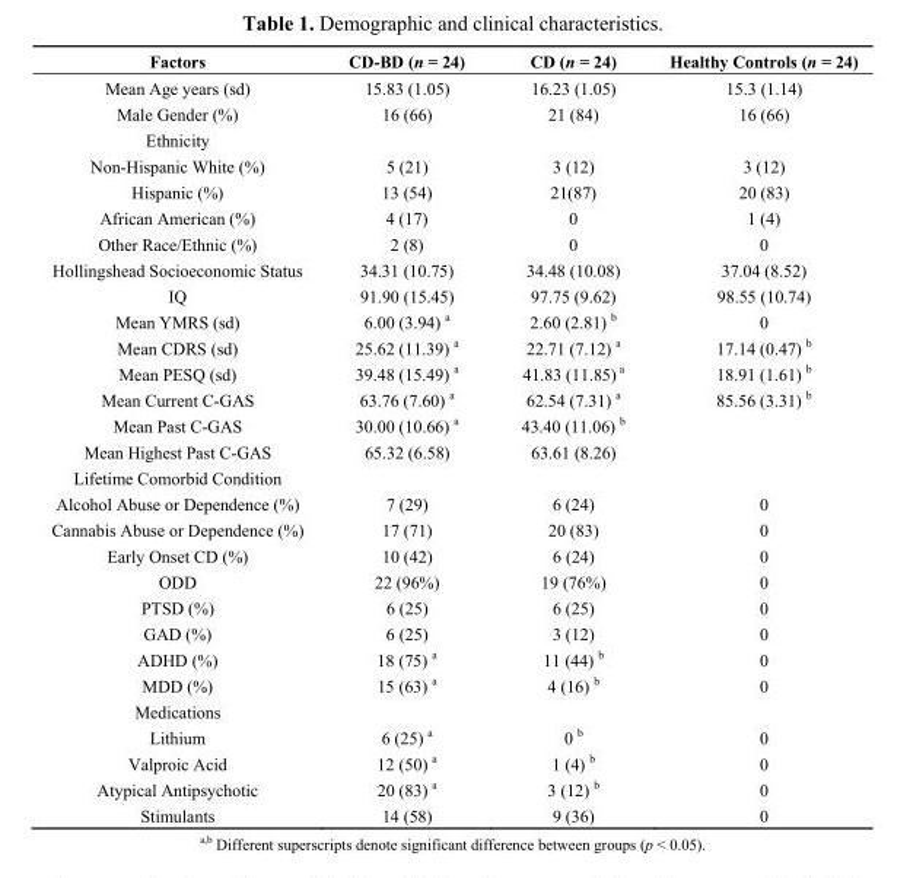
<table><thead><tr><td>Factors</td><td>CD-BD (n = 24)</td><td>CD (n = 24)</td><td>Healthy Controls (n = 24)</td></tr></thead><tbody><tr><td>Mean Age years (sd)</td><td>15.83 (1.05)</td><td>16.23 (1.05)</td><td>15.3 (1.14)</td></tr><tr><td>Male Gender (%)</td><td>16 (66)</td><td>21 (84)</td><td>16 (66)</td></tr><tr><td colspan="4">Ethnicity</td></tr><tr><td>Non-Hispanic White (%)</td><td>5 (21)</td><td>3 (12)</td><td>3 (12)</td></tr><tr><td>Hispanic (%)</td><td>13 (54)</td><td>21(87)</td><td>20 (83)</td></tr><tr><td>African American (%)</td><td>4 (17)</td><td>0</td><td>1 (4)</td></tr><tr><td>Other Race/Ethnic (%)</td><td>2 (8)</td><td>0</td><td>0</td></tr><tr><td>Hollingshead Socioeconomic Status</td><td>34.31 (10.75)</td><td>34.48 (10.08)</td><td>37.04 (8.52)</td></tr><tr><td>IQ</td><td>91.90 (15.45)</td><td>97.75 (9.62)</td><td>98.55 (10.74)</td></tr><tr><td>Mean YMRS (sd)</td><td>6.00 (3.94) <sup>a</sup></td><td>2.60 (2.81) <sup>b</sup></td><td>0</td></tr><tr><td>Mean CDRS (sd)</td><td>25.62 (11.39) <sup>a</sup></td><td>22.71 (7.12) <sup>a</sup></td><td>17.14 (0.47) <sup>b</sup></td></tr><tr><td>Mean PESQ (sd)</td><td>39.48 (15.49) <sup>a</sup></td><td>41.83 (11.85) <sup>a</sup></td><td>18.91 (1.61) <sup>b</sup></td></tr><tr><td>Mean Current C-GAS</td><td>63.76 (7.60) <sup>a</sup></td><td>62.54 (7.31) <sup>a</sup></td><td>85.56 (3.31) <sup>b</sup></td></tr><tr><td>Mean Past C-GAS</td><td>30.00 (10.66) <sup>a</sup></td><td>43.40 (11.06) <sup>b</sup></td><td></td></tr><tr><td>Mean Highest Past C-GAS</td><td>65.32 (6.58)</td><td>63.61 (8.26)</td><td></td></tr><tr><td colspan="4">Lifetime Comorbid Condition</td></tr><tr><td>Alcohol Abuse or Dependence (%)</td><td>7 (29)</td><td>6 (24)</td><td>0</td></tr><tr><td>Cannabis Abuse or Dependence (%)</td><td>17 (71)</td><td>20 (83)</td><td>0</td></tr><tr><td>Early Onset CD (%)</td><td>10 (42)</td><td>6 (24)</td><td>0</td></tr><tr><td>ODD</td><td>22 (96%)</td><td>19 (76%)</td><td>0</td></tr><tr><td>PTSD (%)</td><td>6 (25)</td><td>6 (25)</td><td>0</td></tr><tr><td>GAD (%)</td><td>6 (25)</td><td>3 (12)</td><td>0</td></tr><tr><td>ADHD (%)</td><td>18 (75) <sup>a</sup></td><td>11 (44) <sup>b</sup></td><td>0</td></tr><tr><td>MDD (%)</td><td>15 (63) <sup>a</sup></td><td>4 (16) <sup>b</sup></td><td>0</td></tr><tr><td colspan="4">Medications</td></tr><tr><td>Lithium</td><td>6 (25) <sup>a</sup></td><td>0 <sup>b</sup></td><td>0</td></tr><tr><td>Valproic Acid</td><td>12 (50) <sup>a</sup></td><td>1 (4) <sup>b</sup></td><td>0</td></tr><tr><td>Atypical Antipsychotic</td><td>20 (83) <sup>a</sup></td><td>3 (12) <sup>b</sup></td><td>0</td></tr><tr><td>Stimulants</td><td>14 (58)</td><td>9 (36)</td><td>0</td></tr></tbody></table>